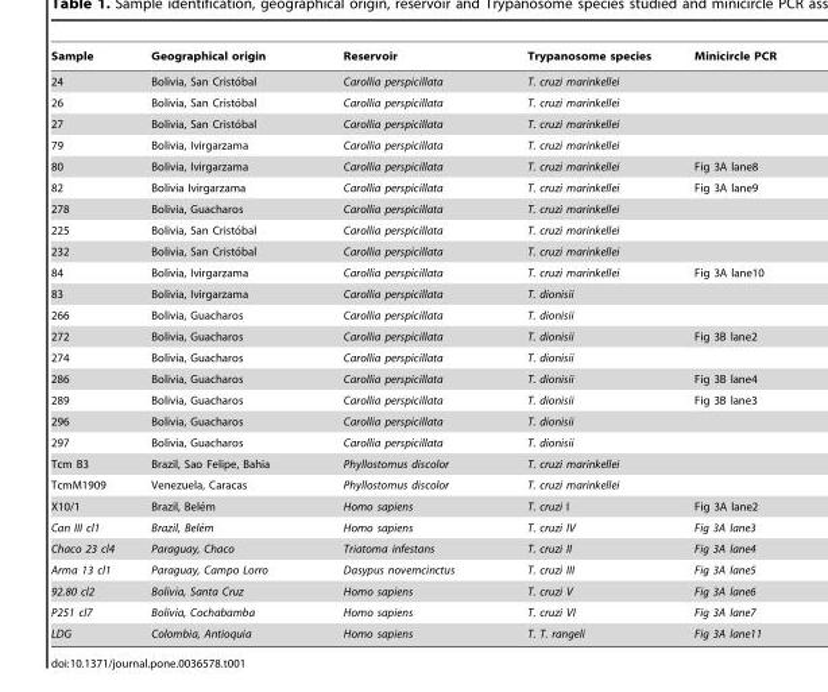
<table><thead><tr><td>Sample</td><td>Geographical origin</td><td>Reservoir</td><td>Trypanosome species</td><td>Minicircle PCR</td></tr></thead><tbody><tr><td>24</td><td>Bolivia, San Cristo´bal</td><td>Carollia perspicillata</td><td>T. cruzi marinkellei</td><td></td></tr><tr><td>26</td><td>Bolivia, San Cristo´bal</td><td>Carollia perspicillata</td><td>T. cruzi marinkellei</td><td></td></tr><tr><td>27</td><td>Bolivia, San Cristo´bal</td><td>Carollia perspicillata</td><td>T. cruzi marinkellei</td><td></td></tr><tr><td>79</td><td>Bolivia, Ivirgarzama</td><td>Carollia perspicillata</td><td>T. cruzi marinkellei</td><td></td></tr><tr><td>80</td><td>Bolivia, Ivirgarzama</td><td>Carollia perspicillata</td><td>T. cruzi marinkellei</td><td>Fig 3A lane8</td></tr><tr><td>82</td><td>Bolivia Ivirgarzama</td><td>Carollia perspicillata</td><td>T. cruzi marinkellei</td><td>Fig 3A lane9</td></tr><tr><td>278</td><td>Bolivia, Guacharos</td><td>Carollia perspicillata</td><td>T. cruzi marinkellei</td><td></td></tr><tr><td>225</td><td>Bolivia, San Cristo´bal</td><td>Carollia perspicillata</td><td>T. cruzi marinkellei</td><td></td></tr><tr><td>232</td><td>Bolivia, San Cristo´bal</td><td>Carollia perspicillata</td><td>T. cruzi marinkellei</td><td></td></tr><tr><td>84</td><td>Bolivia, Ivirgarzama</td><td>Carollia perspicillata</td><td>T. cruzi marinkellei</td><td>Fig 3A lane10</td></tr><tr><td>83</td><td>Bolivia, Ivirgarzama</td><td>Carollia perspicillata</td><td>T. dionisii</td><td></td></tr><tr><td>266</td><td>Bolivia, Guacharos</td><td>Carollia perspicillata</td><td>T. dionisii</td><td></td></tr><tr><td>272</td><td>Bolivia, Guacharos</td><td>Carollia perspicillata</td><td>T. dionisii</td><td>Fig 3B lane2</td></tr><tr><td>274</td><td>Bolivia, Guacharos</td><td>Carollia perspicillata</td><td>T. dionisii</td><td></td></tr><tr><td>286</td><td>Bolivia, Guacharos</td><td>Carollia perspicillata</td><td>T. dionisii</td><td>Fig 3B lane4</td></tr><tr><td>289</td><td>Bolivia, Guacharos</td><td>Carollia perspicillata</td><td>T. dionisii</td><td>Fig 3B lane3</td></tr><tr><td>296</td><td>Bolivia, Guacharos</td><td>Carollia perspicillata</td><td>T. dionisii</td><td></td></tr><tr><td>297</td><td>Bolivia, Guacharos</td><td>Carollia perspicillata</td><td>T. dionisii</td><td></td></tr><tr><td>Tcm B3</td><td>Brazil, Sao Felipe, Bahia</td><td>Phyllostomus discolor</td><td>T. cruzi marinkellei</td><td></td></tr><tr><td>TcmM1909</td><td>Venezuela, Caracas</td><td>Phyllostomus discolor</td><td>T. cruzi marinkellei</td><td></td></tr><tr><td>X10/1</td><td>Brazil, Bele´m</td><td>Homo sapiens</td><td>T. cruzi I</td><td>Fig 3A lane2</td></tr><tr><td>Can III cl1</td><td>Brazil, Bele´m</td><td>Homo sapiens</td><td>T. cruzi IV</td><td>Fig 3A lane3</td></tr><tr><td>Chaco 23 cl4</td><td>Paraguay, Chaco</td><td>Triatoma infestans</td><td>T. cruzi II</td><td>Fig 3A lane4</td></tr><tr><td>Arma 13 cl1</td><td>Paraguay, Campo Lorro</td><td>Dasypus novemcinctus</td><td>T. cruzi III</td><td>Fig 3A lane5</td></tr><tr><td>92.80 cl2</td><td>Bolivia, Santa Cruz</td><td>Homo sapiens</td><td>T. cruzi V</td><td>Fig 3A lane6</td></tr><tr><td>P251 cl7</td><td>Bolivia, Cochabamba</td><td>Homo sapiens</td><td>T. cruzi VI</td><td>Fig 3A lane7</td></tr><tr><td>LDG</td><td>Colombia, Antioquia</td><td>Homo sapiens</td><td>T. T. rangeli</td><td>Fig 3A lane11</td></tr></tbody></table>